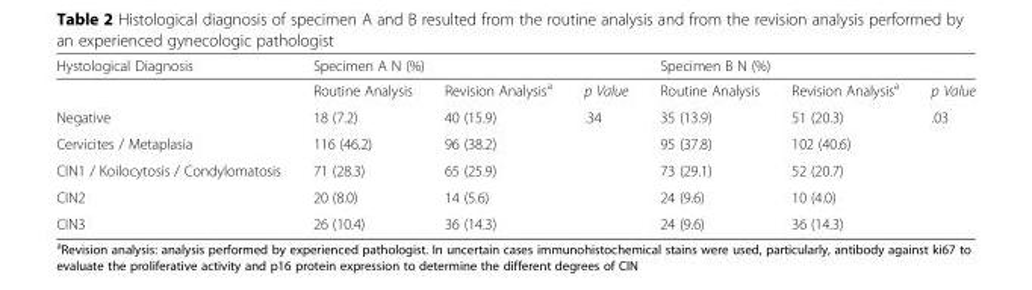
<table><thead><tr><td rowspan="2">Hystological Diagnosis</td><td colspan="2">Specimen A N (%)</td><td rowspan="2">p Value</td><td colspan="2">Specimen B N (%)</td><td rowspan="2">p Value</td></tr><tr><td>Routine Analysis</td><td>Revision Analysis<sup>a</sup></td><td>Routine Analysis</td><td>Revision Analysis<sup>a</sup></td></tr></thead><tbody><tr><td>Negative</td><td>18 (7.2)</td><td>40 (15.9)</td><td>.34</td><td>35 (13.9)</td><td>51 (20.3)</td><td>.03</td></tr><tr><td>Cervicites / Metaplasia</td><td>116 (46.2)</td><td>96 (38.2)</td><td></td><td>95 (37.8)</td><td>102 (40.6)</td><td></td></tr><tr><td>CIN1 / Koilocytosis / Condylomatosis</td><td>71 (28.3)</td><td>65 (25.9)</td><td></td><td>73 (29.1)</td><td>52 (20.7)</td><td></td></tr><tr><td>CIN2</td><td>20 (8.0)</td><td>14 (5.6)</td><td></td><td>24 (9.6)</td><td>10 (4.0)</td><td></td></tr><tr><td>CIN3</td><td>26 (10.4)</td><td>36 (14.3)</td><td></td><td>24 (9.6)</td><td>36 (14.3)</td><td></td></tr></tbody></table>